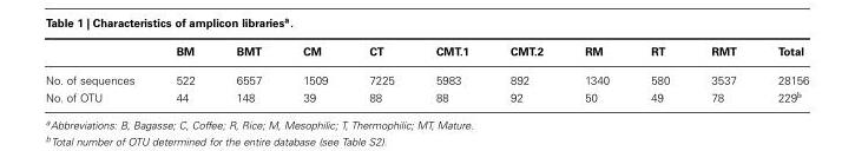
<table><thead><tr><td></td><td>BM</td><td>BMT</td><td>CM</td><td>CT</td><td>CMT.1</td><td>CMT.2</td><td>RM</td><td>RT</td><td>RMT</td><td>Total</td></tr></thead><tbody><tr><td>No. of sequences</td><td>522</td><td>6557</td><td>1509</td><td>7225</td><td>5983</td><td>892</td><td>1340</td><td>580</td><td>3537</td><td>28156</td></tr><tr><td>No. of OTU</td><td>44</td><td>148</td><td>39</td><td>88</td><td>88</td><td>92</td><td>50</td><td>49</td><td>78</td><td>229<sup>b</sup></td></tr></tbody></table>